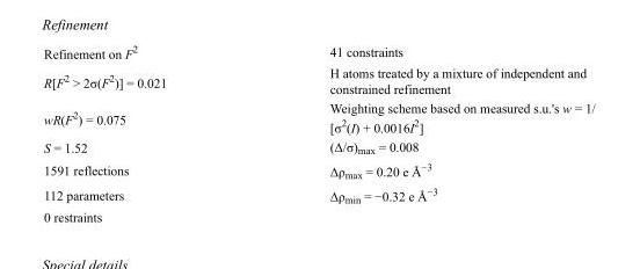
<table><tbody><tr><td>Refinement on F<sup>2</sup></td><td>41 constraints</td></tr><tr><td>R[F<sup>2</sup> &gt; 2σ(F<sup>2</sup>)] = 0.021</td><td>H atoms treated by a mixture of independent and constrained refinement</td></tr><tr><td>wR(F<sup>2</sup>) = 0.075</td><td>Weighting scheme based on measured s.u.&#x27;s w = 1/ [σ<sup>2</sup>(I) + 0.0016I<sup>2</sup>]</td></tr><tr><td>S = 1.52</td><td>(Δ/σ)<sub>max</sub> = 0.008</td></tr><tr><td>1591 reflections</td><td>Δρ<sub>max</sub> = 0.20 e Å<sup>−3</sup></td></tr><tr><td>112 parameters</td><td>Δρ<sub>min</sub> = −0.32 e Å<sup>−3</sup></td></tr><tr><td>0 restraints</td><td></td></tr></tbody></table>